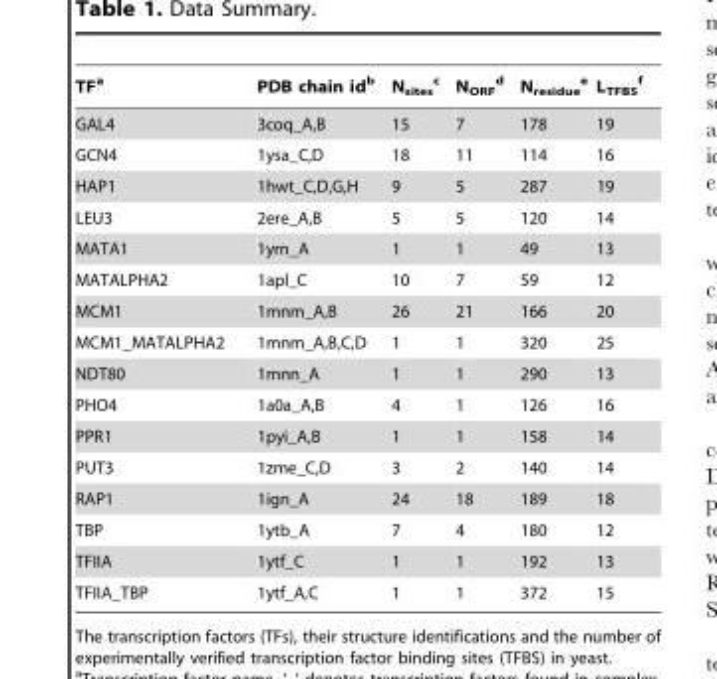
<table><thead><tr><td>TF<sup>a</sup></td><td>PDB chain id<sup>b</sup></td><td>N<sub>sites</sub> c</td><td>N<sub>ORF</sub> d</td><td>N<sub>residue</sub> e</td><td>L<sub>TFBS</sub> f</td></tr></thead><tbody><tr><td>GAL4</td><td>3coq_A,B</td><td>15</td><td>7</td><td>178</td><td>19</td></tr><tr><td>GCN4</td><td>1ysa_C,D</td><td>18</td><td>11</td><td>114</td><td>16</td></tr><tr><td>HAP1</td><td>1hwt_C,D,G,H</td><td>9</td><td>5</td><td>287</td><td>19</td></tr><tr><td>LEU3</td><td>2ere_A,B</td><td>5</td><td>5</td><td>120</td><td>14</td></tr><tr><td>MATA1</td><td>1yrn_A</td><td>1</td><td>1</td><td>49</td><td>13</td></tr><tr><td>MATALPHA2</td><td>1apl_C</td><td>10</td><td>7</td><td>59</td><td>12</td></tr><tr><td>MCM1</td><td>1mnm_A,B</td><td>26</td><td>21</td><td>166</td><td>20</td></tr><tr><td>MCM1_MATALPHA2</td><td>1mnm_A,B,C,D</td><td>1</td><td>1</td><td>320</td><td>25</td></tr><tr><td>NDT80</td><td>1mnn_A</td><td>1</td><td>1</td><td>290</td><td>13</td></tr><tr><td>PHO4</td><td>1a0a_A,B</td><td>4</td><td>1</td><td>126</td><td>16</td></tr><tr><td>PPR1</td><td>1pyi_A,B</td><td>1</td><td>1</td><td>158</td><td>14</td></tr><tr><td>PUT3</td><td>1zme_C,D</td><td>3</td><td>2</td><td>140</td><td>14</td></tr><tr><td>RAP1</td><td>1ign_A</td><td>24</td><td>18</td><td>189</td><td>18</td></tr><tr><td>TBP</td><td>1ytb_A</td><td>7</td><td>4</td><td>180</td><td>12</td></tr><tr><td>TFIIA</td><td>1ytf_C</td><td>1</td><td>1</td><td>192</td><td>13</td></tr><tr><td>TFIIA_TBP</td><td>1ytf_A,C</td><td>1</td><td>1</td><td>372</td><td>15</td></tr></tbody></table>